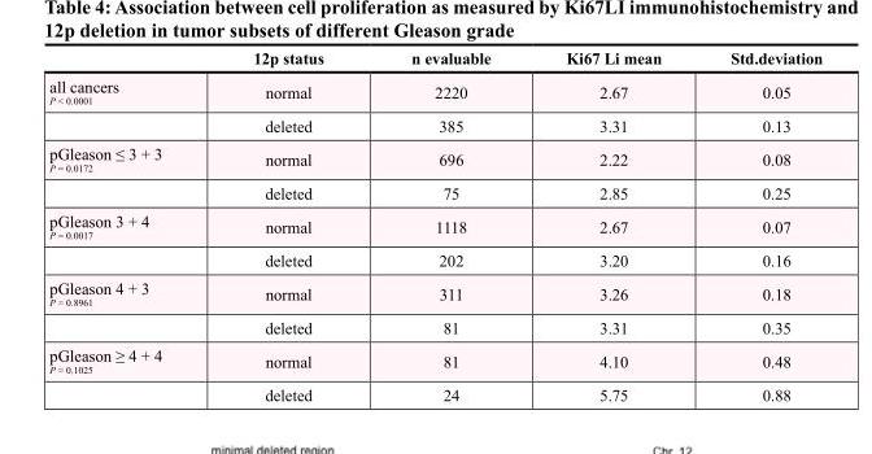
<table><thead><tr><td></td><td>12p status</td><td>n evaluable</td><td>Ki67 Li mean</td><td>Std.deviation</td></tr></thead><tbody><tr><td rowspan="2">all cancers P &lt; 0.0001</td><td>normal</td><td>2220</td><td>2.67</td><td>0.05</td></tr><tr><td>deleted</td><td>385</td><td>3.31</td><td>0.13</td></tr><tr><td rowspan="2">pGleason ≤ 3 + 3 P = 0.0172</td><td>normal</td><td>696</td><td>2.22</td><td>0.08</td></tr><tr><td>deleted</td><td>75</td><td>2.85</td><td>0.25</td></tr><tr><td rowspan="2">pGleason 3 + 4 P = 0.0017</td><td>normal</td><td>1118</td><td>2.67</td><td>0.07</td></tr><tr><td>deleted</td><td>202</td><td>3.20</td><td>0.16</td></tr><tr><td rowspan="2">pGleason 4 + 3 P = 0.8961</td><td>normal</td><td>311</td><td>3.26</td><td>0.18</td></tr><tr><td>deleted</td><td>81</td><td>3.31</td><td>0.35</td></tr><tr><td rowspan="2">pGleason ≥ 4 + 4 P = 0.1025</td><td>normal</td><td>81</td><td>4.10</td><td>0.48</td></tr><tr><td>deleted</td><td>24</td><td>5.75</td><td>0.88</td></tr></tbody></table>